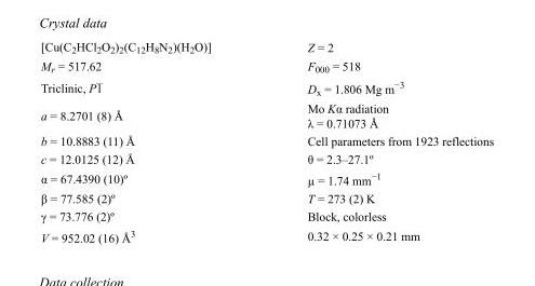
<table><tbody><tr><td>[Cu(C<sub>2</sub>HCl<sub>2</sub>O<sub>2</sub>)<sub>2</sub>(C<sub>12</sub>H<sub>8</sub>N<sub>2</sub>)(H<sub>2</sub>O)]</td><td>Z = 2</td></tr><tr><td>M<sub>r</sub> = 517.62</td><td>F000 = 518</td></tr><tr><td>Triclinic, P1</td><td>D<sub>x</sub> = 1.806 Mg m<sup>−3</sup></td></tr><tr><td>a = 8.2701 (8) Å</td><td>Mo Kα radiation λ = 0.71073 Å</td></tr><tr><td>b = 10.8883 (11) Å</td><td>Cell parameters from 1923 reflections</td></tr><tr><td>c = 12.0125 (12) Å</td><td>θ = 2.3–27.1º</td></tr><tr><td>α = 67.4390 (10)º</td><td>µ = 1.74 mm<sup>−1</sup></td></tr><tr><td>β = 77.585 (2)º</td><td>T = 273 (2) K</td></tr><tr><td>γ = 73.776 (2)º</td><td>Block, colorless</td></tr><tr><td>V = 952.02 (16) Å<sup>3</sup></td><td>0.32 × 0.25 × 0.21 mm</td></tr></tbody></table>